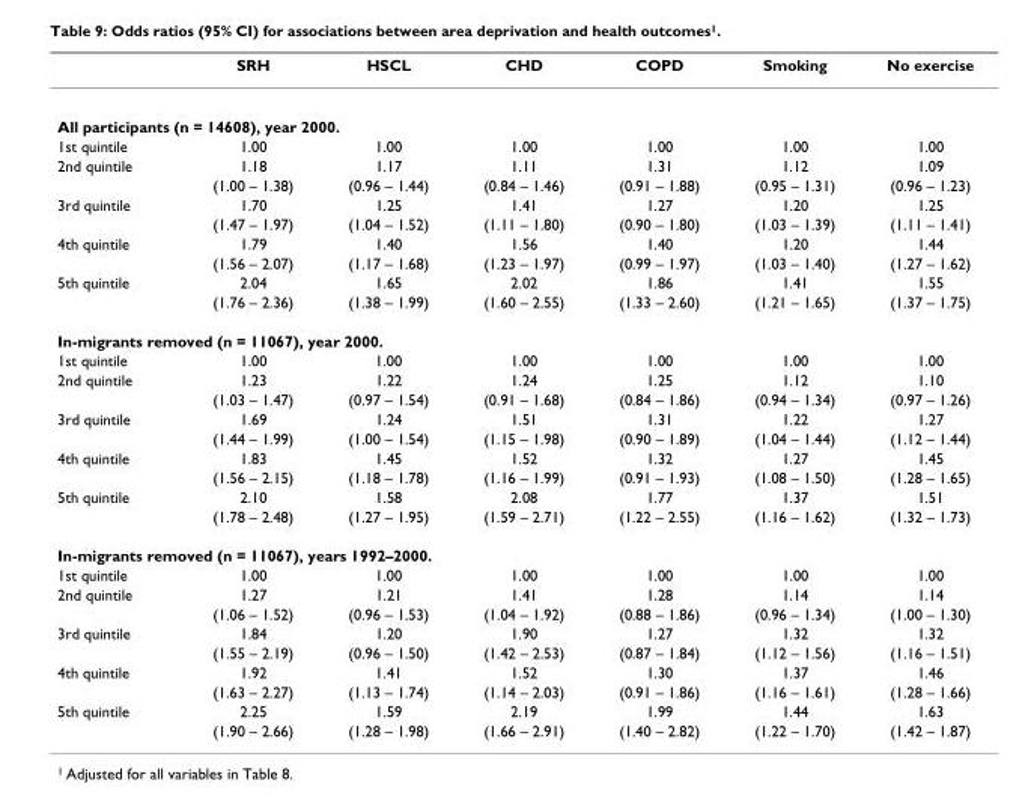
<table><thead><tr><td></td><td>SRH</td><td>HSCL</td><td>CHD</td><td>COPD</td><td>Smoking</td><td>No exercise</td></tr></thead><tbody><tr><td colspan="7">All participants (n = 14608), year 2000.</td></tr><tr><td>1st quintile</td><td>1.00</td><td>1.00</td><td>1.00</td><td>1.00</td><td>1.00</td><td>1.00</td></tr><tr><td rowspan="2">2nd quintile</td><td>1.18</td><td>1.17</td><td>1.11</td><td>1.31</td><td>1.12</td><td>1.09</td></tr><tr><td>(1.00 – 1.38)</td><td>(0.96 – 1.44)</td><td>(0.84 – 1.46)</td><td>(0.91 – 1.88)</td><td>(0.95 – 1.31)</td><td>(0.96 – 1.23)</td></tr><tr><td rowspan="2">3rd quintile</td><td>1.70</td><td>1.25</td><td>1.41</td><td>1.27</td><td>1.20</td><td>1.25</td></tr><tr><td>(1.47 – 1.97)</td><td>(1.04 – 1.52)</td><td>(1.11 – 1.80)</td><td>(0.90 – 1.80)</td><td>(1.03 – 1.39)</td><td>(1.11 – 1.41)</td></tr><tr><td rowspan="2">4th quintile</td><td>1.79</td><td>1.40</td><td>1.56</td><td>1.40</td><td>1.20</td><td>1.44</td></tr><tr><td>(1.56 – 2.07)</td><td>(1.17 – 1.68)</td><td>(1.23 – 1.97)</td><td>(0.99 – 1.97)</td><td>(1.03 – 1.40)</td><td>(1.27 – 1.62)</td></tr><tr><td rowspan="2">5th quintile</td><td>2.04</td><td>1.65</td><td>2.02</td><td>1.86</td><td>1.41</td><td>1.55</td></tr><tr><td>(1.76 – 2.36)</td><td>(1.38 – 1.99)</td><td>(1.60 – 2.55)</td><td>(1.33 – 2.60)</td><td>(1.21 – 1.65)</td><td>(1.37 – 1.75)</td></tr><tr><td colspan="7">In-migrants removed (n = 11067), year 2000.</td></tr><tr><td>1st quintile</td><td>1.00</td><td>1.00</td><td>1.00</td><td>1.00</td><td>1.00</td><td>1.00</td></tr><tr><td rowspan="2">2nd quintile</td><td>1.23</td><td>1.22</td><td>1.24</td><td>1.25</td><td>1.12</td><td>1.10</td></tr><tr><td>(1.03 – 1.47)</td><td>(0.97 – 1.54)</td><td>(0.91 – 1.68)</td><td>(0.84 – 1.86)</td><td>(0.94 – 1.34)</td><td>(0.97 – 1.26)</td></tr><tr><td rowspan="2">3rd quintile</td><td>1.69</td><td>1.24</td><td>1.51</td><td>1.31</td><td>1.22</td><td>1.27</td></tr><tr><td>(1.44 – 1.99)</td><td>(1.00 – 1.54)</td><td>(1.15 – 1.98)</td><td>(0.90 – 1.89)</td><td>(1.04 – 1.44)</td><td>(1.12 – 1.44)</td></tr><tr><td rowspan="2">4th quintile</td><td>1.83</td><td>1.45</td><td>1.52</td><td>1.32</td><td>1.27</td><td>1.45</td></tr><tr><td>(1.56 – 2.15)</td><td>(1.18 – 1.78)</td><td>(1.16 – 1.99)</td><td>(0.91 – 1.93)</td><td>(1.08 – 1.50)</td><td>(1.28 – 1.65)</td></tr><tr><td rowspan="2">5th quintile</td><td>2.10</td><td>1.58</td><td>2.08</td><td>1.77</td><td>1.37</td><td>1.51</td></tr><tr><td>(1.78 – 2.48)</td><td>(1.27 – 1.95)</td><td>(1.59 – 2.71)</td><td>(1.22 – 2.55)</td><td>(1.16 – 1.62)</td><td>(1.32 – 1.73)</td></tr><tr><td colspan="7">In-migrants removed (n = 11067), years 1992–2000.</td></tr><tr><td>1st quintile</td><td>1.00</td><td>1.00</td><td>1.00</td><td>1.00</td><td>1.00</td><td>1.00</td></tr><tr><td rowspan="2">2nd quintile</td><td>1.27</td><td>1.21</td><td>1.41</td><td>1.28</td><td>1.14</td><td>1.14</td></tr><tr><td>(1.06 – 1.52)</td><td>(0.96 – 1.53)</td><td>(1.04 – 1.92)</td><td>(0.88 – 1.86)</td><td>(0.96 – 1.34)</td><td>(1.00 – 1.30)</td></tr><tr><td rowspan="2">3rd quintile</td><td>1.84</td><td>1.20</td><td>1.90</td><td>1.27</td><td>1.32</td><td>1.32</td></tr><tr><td>(1.55 – 2.19)</td><td>(0.96 – 1.50)</td><td>(1.42 – 2.53)</td><td>(0.87 – 1.84)</td><td>(1.12 – 1.56)</td><td>(1.16 – 1.51)</td></tr><tr><td rowspan="2">4th quintile</td><td>1.92</td><td>1.41</td><td>1.52</td><td>1.30</td><td>1.37</td><td>1.46</td></tr><tr><td>(1.63 – 2.27)</td><td>(1.13 – 1.74)</td><td>(1.14 – 2.03)</td><td>(0.91 – 1.86)</td><td>(1.16 – 1.61)</td><td>(1.28 – 1.66)</td></tr><tr><td rowspan="2">5th quintile</td><td>2.25</td><td>1.59</td><td>2.19</td><td>1.99</td><td>1.44</td><td>1.63</td></tr><tr><td>(1.90 – 2.66)</td><td>(1.28 – 1.98)</td><td>(1.66 – 2.91)</td><td>(1.40 – 2.82)</td><td>(1.22 – 1.70)</td><td>(1.42 – 1.87)</td></tr></tbody></table>